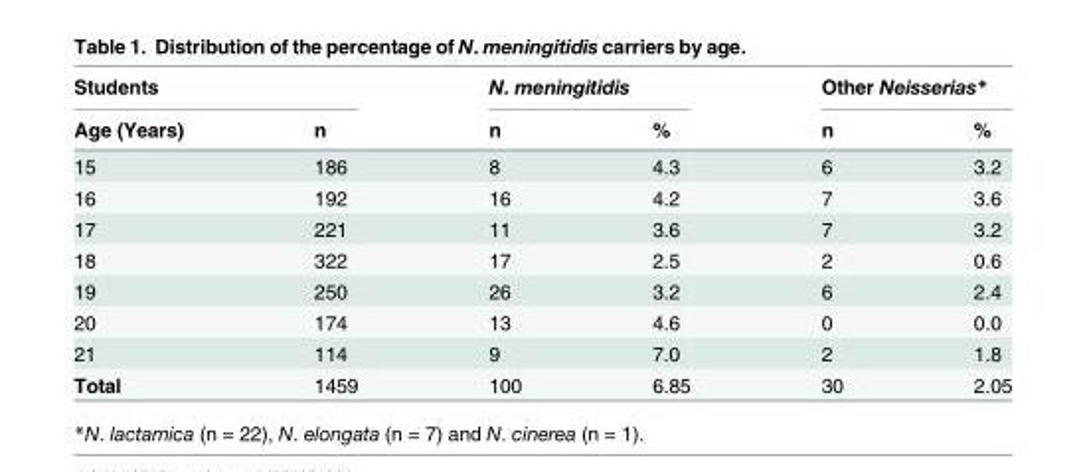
<table><thead><tr><td colspan="2">Students</td><td colspan="2">N. meningitidis</td><td colspan="2">Other Neisserias*</td></tr><tr><td>Age (Years)</td><td>n</td><td>n</td><td>%</td><td>n</td><td>%</td></tr></thead><tbody><tr><td>15</td><td>186</td><td>8</td><td>4.3</td><td>6</td><td>3.2</td></tr><tr><td>16</td><td>192</td><td>16</td><td>4.2</td><td>7</td><td>3.6</td></tr><tr><td>17</td><td>221</td><td>11</td><td>3.6</td><td>7</td><td>3.2</td></tr><tr><td>18</td><td>322</td><td>17</td><td>2.5</td><td>2</td><td>0.6</td></tr><tr><td>19</td><td>250</td><td>26</td><td>3.2</td><td>6</td><td>2.4</td></tr><tr><td>20</td><td>174</td><td>13</td><td>4.6</td><td>0</td><td>0.0</td></tr><tr><td>21</td><td>114</td><td>9</td><td>7.0</td><td>2</td><td>1.8</td></tr><tr><td>Total</td><td>1459</td><td>100</td><td>6.85</td><td>30</td><td>2.05</td></tr></tbody></table>